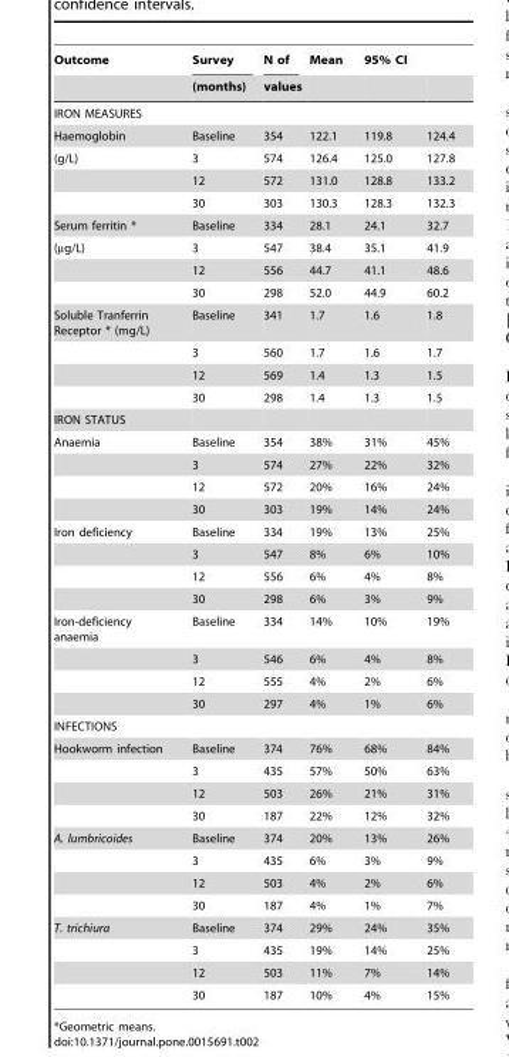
<table><thead><tr><td rowspan="2">Outcome</td><td rowspan="2">Survey (months)</td><td rowspan="2">N of values</td><td rowspan="2">Mean</td><td colspan="2">95% CI</td></tr><tr><td></td><td></td></tr></thead><tbody><tr><td colspan="6">IRON MEASURES</td></tr><tr><td>Haemoglobin</td><td>Baseline</td><td>354</td><td>122.1</td><td>119.8</td><td>124.4</td></tr><tr><td rowspan="3">(g/L)</td><td>3</td><td>574</td><td>126.4</td><td>125.0</td><td>127.8</td></tr><tr><td>12</td><td>572</td><td>131.0</td><td>128.8</td><td>133.2</td></tr><tr><td>30</td><td>303</td><td>130.3</td><td>128.3</td><td>132.3</td></tr><tr><td>Serum ferritin *</td><td>Baseline</td><td>334</td><td>28.1</td><td>24.1</td><td>32.7</td></tr><tr><td rowspan="3">(µg/L)</td><td>3</td><td>547</td><td>38.4</td><td>35.1</td><td>41.9</td></tr><tr><td>12</td><td>556</td><td>44.7</td><td>41.1</td><td>48.6</td></tr><tr><td>30</td><td>298</td><td>52.0</td><td>44.9</td><td>60.2</td></tr><tr><td rowspan="4">Soluble Tranferrin Receptor * (mg/L)</td><td>Baseline</td><td>341</td><td>1.7</td><td>1.6</td><td>1.8</td></tr><tr><td>3</td><td>560</td><td>1.7</td><td>1.6</td><td>1.7</td></tr><tr><td>12</td><td>569</td><td>1.4</td><td>1.3</td><td>1.5</td></tr><tr><td>30</td><td>298</td><td>1.4</td><td>1.3</td><td>1.5</td></tr><tr><td colspan="6">IRON STATUS</td></tr><tr><td rowspan="4">Anaemia</td><td>Baseline</td><td>354</td><td>38%</td><td>31%</td><td>45%</td></tr><tr><td>3</td><td>574</td><td>27%</td><td>22%</td><td>32%</td></tr><tr><td>12</td><td>572</td><td>20%</td><td>16%</td><td>24%</td></tr><tr><td>30</td><td>303</td><td>19%</td><td>14%</td><td>24%</td></tr><tr><td rowspan="4">Iron deficiency</td><td>Baseline</td><td>334</td><td>19%</td><td>13%</td><td>25%</td></tr><tr><td>3</td><td>547</td><td>8%</td><td>6%</td><td>10%</td></tr><tr><td>12</td><td>556</td><td>6%</td><td>4%</td><td>8%</td></tr><tr><td>30</td><td>298</td><td>6%</td><td>3%</td><td>9%</td></tr><tr><td rowspan="4">Iron-deficiency anaemia</td><td>Baseline</td><td>334</td><td>14%</td><td>10%</td><td>19%</td></tr><tr><td>3</td><td>546</td><td>6%</td><td>4%</td><td>8%</td></tr><tr><td>12</td><td>555</td><td>4%</td><td>2%</td><td>6%</td></tr><tr><td>30</td><td>297</td><td>4%</td><td>1%</td><td>6%</td></tr><tr><td colspan="6">INFECTIONS</td></tr><tr><td rowspan="4">Hookworm infection</td><td>Baseline</td><td>374</td><td>76%</td><td>68%</td><td>84%</td></tr><tr><td>3</td><td>435</td><td>57%</td><td>50%</td><td>63%</td></tr><tr><td>12</td><td>503</td><td>26%</td><td>21%</td><td>31%</td></tr><tr><td>30</td><td>187</td><td>22%</td><td>12%</td><td>32%</td></tr><tr><td rowspan="4">A. lumbricoides</td><td>Baseline</td><td>374</td><td>20%</td><td>13%</td><td>26%</td></tr><tr><td>3</td><td>435</td><td>6%</td><td>3%</td><td>9%</td></tr><tr><td>12</td><td>503</td><td>4%</td><td>2%</td><td>6%</td></tr><tr><td>30</td><td>187</td><td>4%</td><td>1%</td><td>7%</td></tr><tr><td rowspan="4">T. trichiura</td><td>Baseline</td><td>374</td><td>29%</td><td>24%</td><td>35%</td></tr><tr><td>3</td><td>435</td><td>19%</td><td>14%</td><td>25%</td></tr><tr><td>12</td><td>503</td><td>11%</td><td>7%</td><td>14%</td></tr><tr><td>30</td><td>187</td><td>10%</td><td>4%</td><td>15%</td></tr></tbody></table>